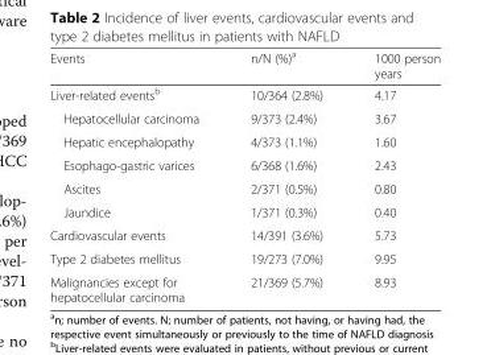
<table><thead><tr><td>Events</td><td>n/N (%)<sup>a</sup></td><td>1000 person years</td></tr></thead><tbody><tr><td>Liver-related events<sup>b</sup></td><td>10/364 (2.8%)</td><td>4.17</td></tr><tr><td>Hepatocellular carcinoma</td><td>9/373 (2.4%)</td><td>3.67</td></tr><tr><td>Hepatic encephalopathy</td><td>4/373 (1.1%)</td><td>1.60</td></tr><tr><td>Esophago-gastric varices</td><td>6/368 (1.6%)</td><td>2.43</td></tr><tr><td>Ascites</td><td>2/371 (0.5%)</td><td>0.80</td></tr><tr><td>Jaundice</td><td>1/371 (0.3%)</td><td>0.40</td></tr><tr><td>Cardiovascular events</td><td>14/391 (3.6%)</td><td>5.73</td></tr><tr><td>Type 2 diabetes mellitus</td><td>19/273 (7.0%)</td><td>9.95</td></tr><tr><td>Malignancies except for hepatocellular carcinoma</td><td>21/369 (5.7%)</td><td>8.93</td></tr></tbody></table>